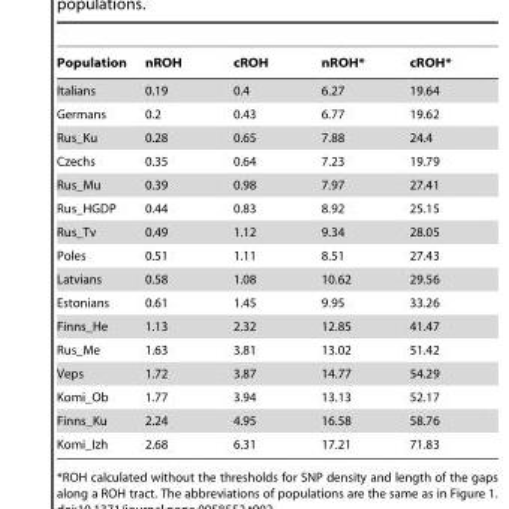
<table><thead><tr><td>Population</td><td>nROH</td><td>cROH</td><td>nROH*</td><td>cROH*</td></tr></thead><tbody><tr><td>Italians</td><td>0.19</td><td>0.4</td><td>6.27</td><td>19.64</td></tr><tr><td>Germans</td><td>0.2</td><td>0.43</td><td>6.77</td><td>19.62</td></tr><tr><td>Rus_Ku</td><td>0.28</td><td>0.65</td><td>7.88</td><td>24.4</td></tr><tr><td>Czechs</td><td>0.35</td><td>0.64</td><td>7.23</td><td>19.79</td></tr><tr><td>Rus_Mu</td><td>0.39</td><td>0.98</td><td>7.97</td><td>27.41</td></tr><tr><td>Rus_HGDP</td><td>0.44</td><td>0.83</td><td>8.92</td><td>25.15</td></tr><tr><td>Rus_Tv</td><td>0.49</td><td>1.12</td><td>9.34</td><td>28.05</td></tr><tr><td>Poles</td><td>0.51</td><td>1.11</td><td>8.51</td><td>27.43</td></tr><tr><td>Latvians</td><td>0.58</td><td>1.08</td><td>10.62</td><td>29.56</td></tr><tr><td>Estonians</td><td>0.61</td><td>1.45</td><td>9.95</td><td>33.26</td></tr><tr><td>Finns_He</td><td>1.13</td><td>2.32</td><td>12.85</td><td>41.47</td></tr><tr><td>Rus_Me</td><td>1.63</td><td>3.81</td><td>13.02</td><td>51.42</td></tr><tr><td>Veps</td><td>1.72</td><td>3.87</td><td>14.77</td><td>54.29</td></tr><tr><td>Komi_Ob</td><td>1.77</td><td>3.94</td><td>13.13</td><td>52.17</td></tr><tr><td>Finns_Ku</td><td>2.24</td><td>4.95</td><td>16.58</td><td>58.76</td></tr><tr><td>Komi_Izh</td><td>2.68</td><td>6.31</td><td>17.21</td><td>71.83</td></tr></tbody></table>